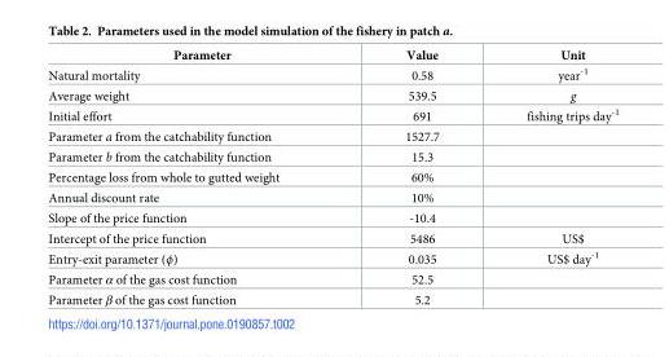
<table><thead><tr><td>Parameter</td><td>Value</td><td>Unit</td></tr></thead><tbody><tr><td>Natural mortality</td><td>0.58</td><td>year<sup>-1</sup></td></tr><tr><td>Average weight</td><td>539.5</td><td>g</td></tr><tr><td>Initial effort</td><td>691</td><td>fishing trips day<sup>-1</sup></td></tr><tr><td>Parameter a from the catchability function</td><td>1527.7</td><td></td></tr><tr><td>Parameter b from the catchability function</td><td>15.3</td><td></td></tr><tr><td>Percentage loss from whole to gutted weight</td><td>60%</td><td></td></tr><tr><td>Annual discount rate</td><td>10%</td><td></td></tr><tr><td>Slope of the price function</td><td>-10.4</td><td></td></tr><tr><td>Intercept of the price function</td><td>5486</td><td>US$</td></tr><tr><td>Entry-exit parameter (ϕ)</td><td>0.035</td><td>US$ day<sup>-1</sup></td></tr><tr><td>Parameter α of the gas cost function</td><td>52.5</td><td></td></tr><tr><td>Parameter β of the gas cost function</td><td>5.2</td><td></td></tr></tbody></table>